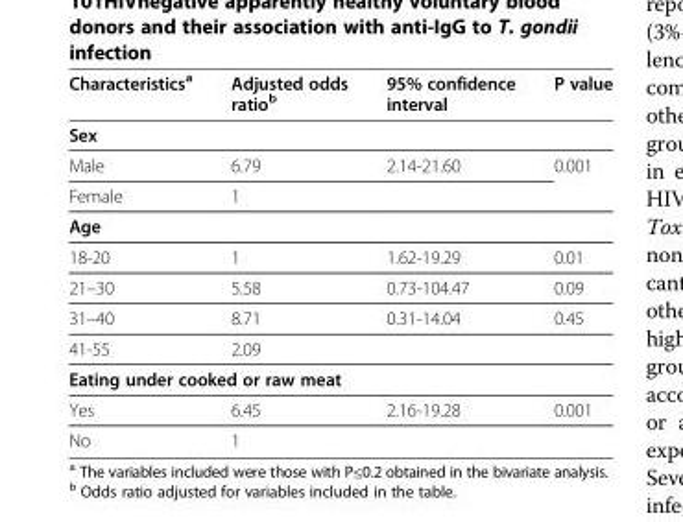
<table><thead><tr><td>Characteristics<sup>a</sup></td><td>Adjusted odds ratio<sup>b</sup></td><td>95% confidence interval</td><td>P value</td></tr></thead><tbody><tr><td colspan="4">Sex</td></tr><tr><td>Male</td><td>6.79</td><td>2.14-21.60</td><td>0.001</td></tr><tr><td>Female</td><td>1</td><td></td><td></td></tr><tr><td colspan="4">Age</td></tr><tr><td>18-20</td><td>1</td><td>1.62-19.29</td><td>0.01</td></tr><tr><td>21–30</td><td>5.58</td><td>0.73-104.47</td><td>0.09</td></tr><tr><td>31–40</td><td>8.71</td><td>0.31-14.04</td><td>0.45</td></tr><tr><td>41-55</td><td>2.09</td><td></td><td></td></tr><tr><td colspan="4">Eating under cooked or raw meat</td></tr><tr><td>Yes</td><td>6.45</td><td>2.16-19.28</td><td>0.001</td></tr><tr><td>No</td><td>1</td><td></td><td></td></tr></tbody></table>